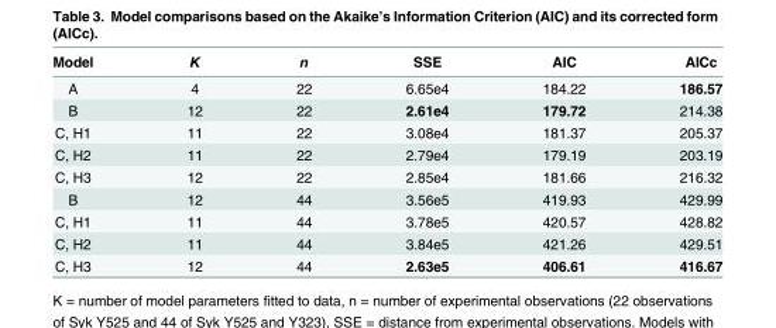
<table><thead><tr><td>Model</td><td>K</td><td>n</td><td>SSE</td><td>AIC</td><td>AICc</td></tr></thead><tbody><tr><td>A</td><td>4</td><td>22</td><td>6.65e4</td><td>184.22</td><td>186.57</td></tr><tr><td>B</td><td>12</td><td>22</td><td>2.61e4</td><td>179.72</td><td>214.38</td></tr><tr><td>C, H1</td><td>11</td><td>22</td><td>3.08e4</td><td>181.37</td><td>205.37</td></tr><tr><td>C, H2</td><td>11</td><td>22</td><td>2.79e4</td><td>179.19</td><td>203.19</td></tr><tr><td>C, H3</td><td>12</td><td>22</td><td>2.85e4</td><td>181.66</td><td>216.32</td></tr><tr><td>B</td><td>12</td><td>44</td><td>3.56e5</td><td>419.93</td><td>429.99</td></tr><tr><td>C, H1</td><td>11</td><td>44</td><td>3.78e5</td><td>420.57</td><td>428.82</td></tr><tr><td>C, H2</td><td>11</td><td>44</td><td>3.84e5</td><td>421.26</td><td>429.51</td></tr><tr><td>C, H3</td><td>12</td><td>44</td><td>2.63e5</td><td>406.61</td><td>416.67</td></tr></tbody></table>